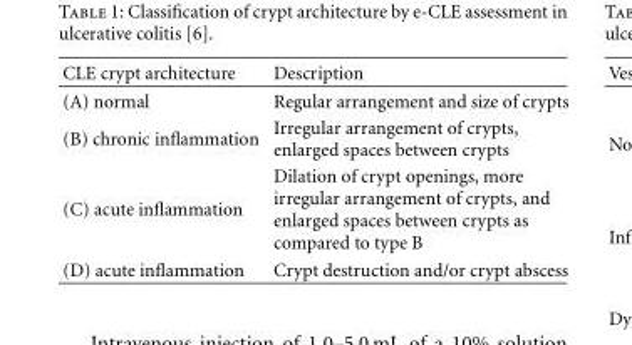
<table><thead><tr><td>CLE crypt architecture</td><td>Description</td></tr></thead><tbody><tr><td>(A) normal</td><td>Regular arrangement and size of crypts</td></tr><tr><td>(B) chronic inflammation</td><td>Irregular arrangement of crypts, enlarged spaces between crypts</td></tr><tr><td>(C) acute inflammation</td><td>Dilation of crypt openings, more irregular arrangement of crypts, and enlarged spaces between crypts as compared to type B</td></tr><tr><td>(D) acute inflammation</td><td>Crypt destruction and/or crypt abscess</td></tr></tbody></table>